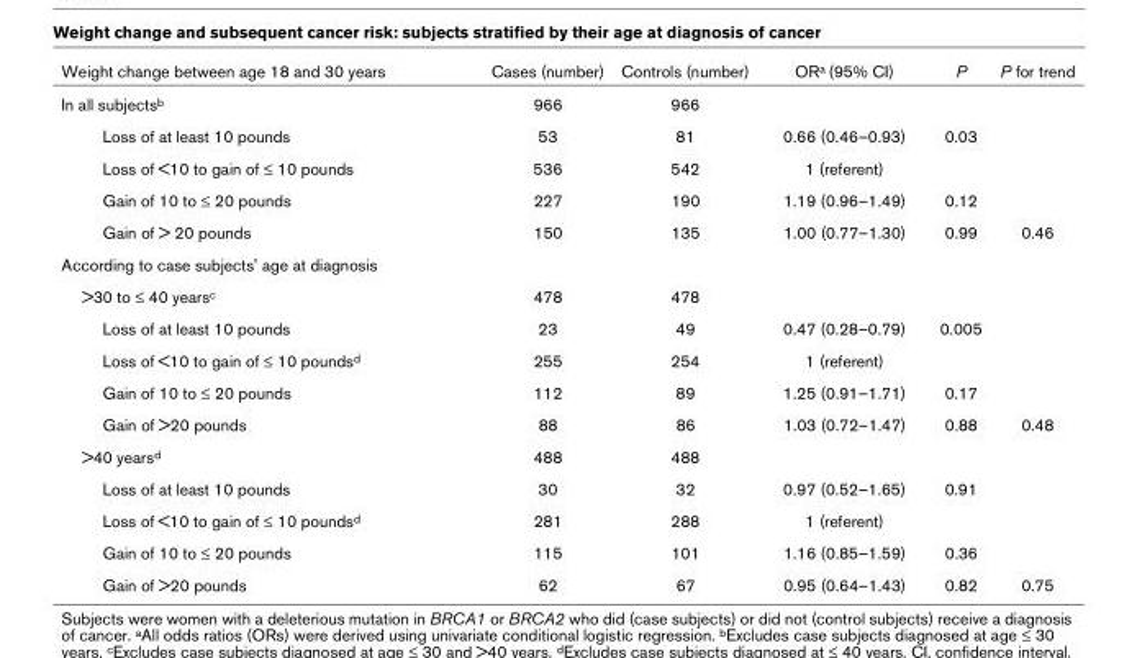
<table><thead><tr><td>Weight change between age 18 and 30 years</td><td>Cases (number)</td><td>Controls (number)</td><td>ORa (95% CI)</td><td>P</td><td>P for trend</td></tr></thead><tbody><tr><td>In all subjectsb</td><td>966</td><td>966</td><td></td><td></td><td></td></tr><tr><td>Loss of at least 10 pounds</td><td>53</td><td>81</td><td>0.66 (0.46–0.93)</td><td>0.03</td><td></td></tr><tr><td>Loss of &lt;10 to gain of ≤ 10 pounds</td><td>536</td><td>542</td><td>1 (referent)</td><td></td><td></td></tr><tr><td>Gain of 10 to ≤ 20 pounds</td><td>227</td><td>190</td><td>1.19 (0.96–1.49)</td><td>0.12</td><td></td></tr><tr><td>Gain of &gt; 20 pounds</td><td>150</td><td>135</td><td>1.00 (0.77–1.30)</td><td>0.99</td><td>0.46</td></tr><tr><td colspan="6">According to case subjects&#x27; age at diagnosis</td></tr><tr><td>&gt;30 to ≤ 40 yearsc</td><td>478</td><td>478</td><td></td><td></td><td></td></tr><tr><td>Loss of at least 10 pounds</td><td>23</td><td>49</td><td>0.47 (0.28–0.79)</td><td>0.005</td><td></td></tr><tr><td>Loss of &lt;10 to gain of ≤ 10 poundsd</td><td>255</td><td>254</td><td>1 (referent)</td><td></td><td></td></tr><tr><td>Gain of 10 to ≤ 20 pounds</td><td>112</td><td>89</td><td>1.25 (0.91–1.71)</td><td>0.17</td><td></td></tr><tr><td>Gain of &gt;20 pounds</td><td>88</td><td>86</td><td>1.03 (0.72–1.47)</td><td>0.88</td><td>0.48</td></tr><tr><td>&gt;40 yearsd</td><td>488</td><td>488</td><td></td><td></td><td></td></tr><tr><td>Loss of at least 10 pounds</td><td>30</td><td>32</td><td>0.97 (0.52–1.65)</td><td>0.91</td><td></td></tr><tr><td>Loss of &lt;10 to gain of ≤ 10 poundsd</td><td>281</td><td>288</td><td>1 (referent)</td><td></td><td></td></tr><tr><td>Gain of 10 to ≤ 20 pounds</td><td>115</td><td>101</td><td>1.16 (0.85–1.59)</td><td>0.36</td><td></td></tr><tr><td>Gain of &gt;20 pounds</td><td>62</td><td>67</td><td>0.95 (0.64–1.43)</td><td>0.82</td><td>0.75</td></tr></tbody></table>